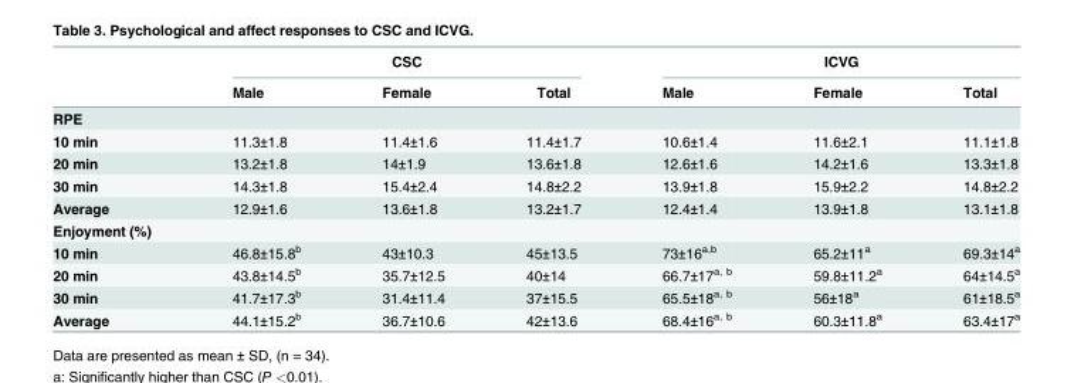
<table><thead><tr><td rowspan="2"></td><td colspan="3">CSC</td><td colspan="3">ICVG</td></tr><tr><td>Male</td><td>Female</td><td>Total</td><td>Male</td><td>Female</td><td>Total</td></tr></thead><tbody><tr><td colspan="7">RPE</td></tr><tr><td>10 min</td><td>11.3±1.8</td><td>11.4±1.6</td><td>11.4±1.7</td><td>10.6±1.4</td><td>11.6±2.1</td><td>11.1±1.8</td></tr><tr><td>20 min</td><td>13.2±1.8</td><td>14±1.9</td><td>13.6±1.8</td><td>12.6±1.6</td><td>14.2±1.6</td><td>13.3±1.8</td></tr><tr><td>30 min</td><td>14.3±1.8</td><td>15.4±2.4</td><td>14.8±2.2</td><td>13.9±1.8</td><td>15.9±2.2</td><td>14.8±2.2</td></tr><tr><td>Average</td><td>12.9±1.6</td><td>13.6±1.8</td><td>13.2±1.7</td><td>12.4±1.4</td><td>13.9±1.8</td><td>13.1±1.8</td></tr><tr><td colspan="7">Enjoyment (%)</td></tr><tr><td>10 min</td><td>46.8±15.8<sup>b</sup></td><td>43±10.3</td><td>45±13.5</td><td>73±16<sup>a,b</sup></td><td>65.2±11<sup>a</sup></td><td>69.3±14<sup>a</sup></td></tr><tr><td>20 min</td><td>43.8±14.5<sup>b</sup></td><td>35.7±12.5</td><td>40±14</td><td>66.7±17<sup>a, b</sup></td><td>59.8±11.2<sup>a</sup></td><td>64±14.5<sup>a</sup></td></tr><tr><td>30 min</td><td>41.7±17.3<sup>b</sup></td><td>31.4±11.4</td><td>37±15.5</td><td>65.5±18<sup>a, b</sup></td><td>56±18<sup>a</sup></td><td>61±18.5<sup>a</sup></td></tr><tr><td>Average</td><td>44.1±15.2<sup>b</sup></td><td>36.7±10.6</td><td>42±13.6</td><td>68.4±16<sup>a, b</sup></td><td>60.3±11.8<sup>a</sup></td><td>63.4±17<sup>a</sup></td></tr></tbody></table>